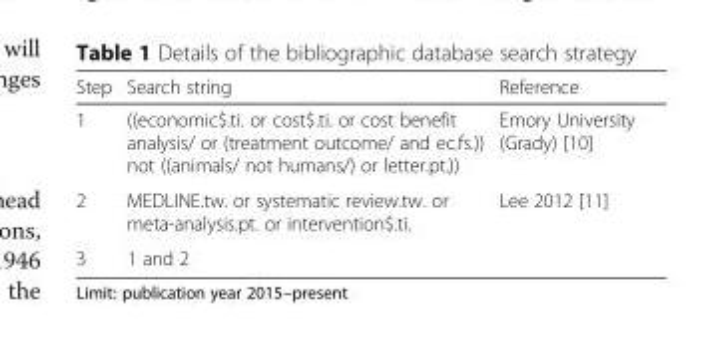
<table><thead><tr><td>Step</td><td>Search string</td><td>Reference</td></tr></thead><tbody><tr><td>1</td><td>((economic$.ti. or cost$.ti. or cost benefit analysis/ or (treatment outcome/ and ec.fs.)) not ((animals/ not humans/) or letter.pt.))</td><td>Emory University (Grady) [10]</td></tr><tr><td>2</td><td>MEDLINE.tw. or systematic review.tw. or meta-analysis.pt. or intervention$.ti.</td><td>Lee 2012 [11]</td></tr><tr><td>3</td><td>1 and 2</td><td></td></tr></tbody></table>